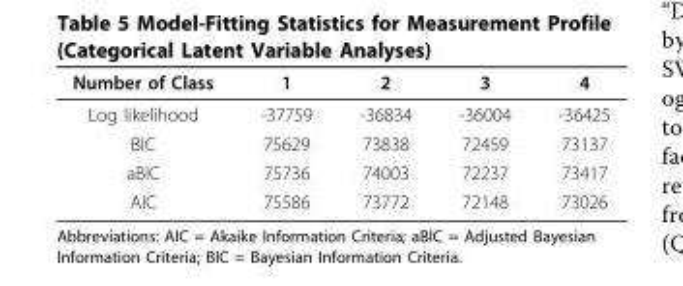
<table><thead><tr><td>Number of Class</td><td>1</td><td>2</td><td>3</td><td>4</td></tr></thead><tbody><tr><td>Log likelihood</td><td>-37759</td><td>-36834</td><td>-36004</td><td>-36425</td></tr><tr><td>BIC</td><td>75629</td><td>73838</td><td>72459</td><td>73137</td></tr><tr><td>aBIC</td><td>75736</td><td>74003</td><td>72237</td><td>73417</td></tr><tr><td>AIC</td><td>75586</td><td>73772</td><td>72148</td><td>73026</td></tr></tbody></table>